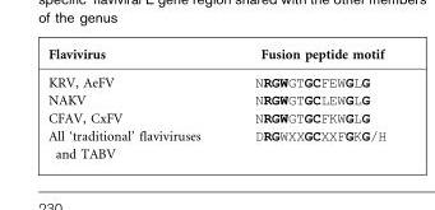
<table><thead><tr><td>Flavivirus</td><td>Fusion peptide motif</td></tr></thead><tbody><tr><td>KRV, AeFV</td><td>NRGWGTGCFEWGLG</td></tr><tr><td>NAKV</td><td>NRGWGTGCLEWGLG</td></tr><tr><td>CFAV, CxFV</td><td>NRGWGTGCFKWGLG</td></tr><tr><td>All ‘traditional’ flaviviruses and TABV</td><td>DRGWXXGCXXFGKG/H</td></tr></tbody></table>